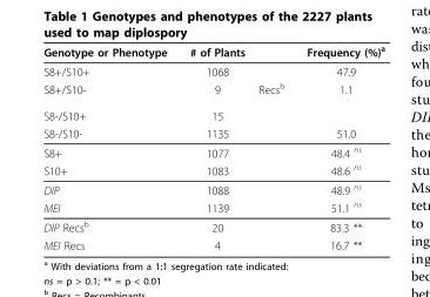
<table><thead><tr><td>Genotype or Phenotype</td><td># of Plants</td><td></td><td>Frequency (%)<sup>a</sup></td></tr></thead><tbody><tr><td>S8+/S10+</td><td>1068</td><td></td><td>47.9</td></tr><tr><td>S8+/S10- S8-/S10+</td><td>9 15</td><td>Recs<sup>b</sup></td><td>1.1</td></tr><tr><td>S8-/S10-</td><td>1135</td><td></td><td>51.0</td></tr><tr><td>S8+</td><td>1077</td><td></td><td>48.4 <sup>ns</sup></td></tr><tr><td>S10+</td><td>1083</td><td></td><td>48.6 <sup>ns</sup></td></tr><tr><td>DIP</td><td>1088</td><td></td><td>48.9 <sup>ns</sup></td></tr><tr><td>MEI</td><td>1139</td><td></td><td>51.1 <sup>ns</sup></td></tr><tr><td>DIP Recs<sup>b</sup></td><td>20</td><td></td><td>83.3 **</td></tr><tr><td>MEI Recs</td><td>4</td><td></td><td>16.7 **</td></tr></tbody></table>